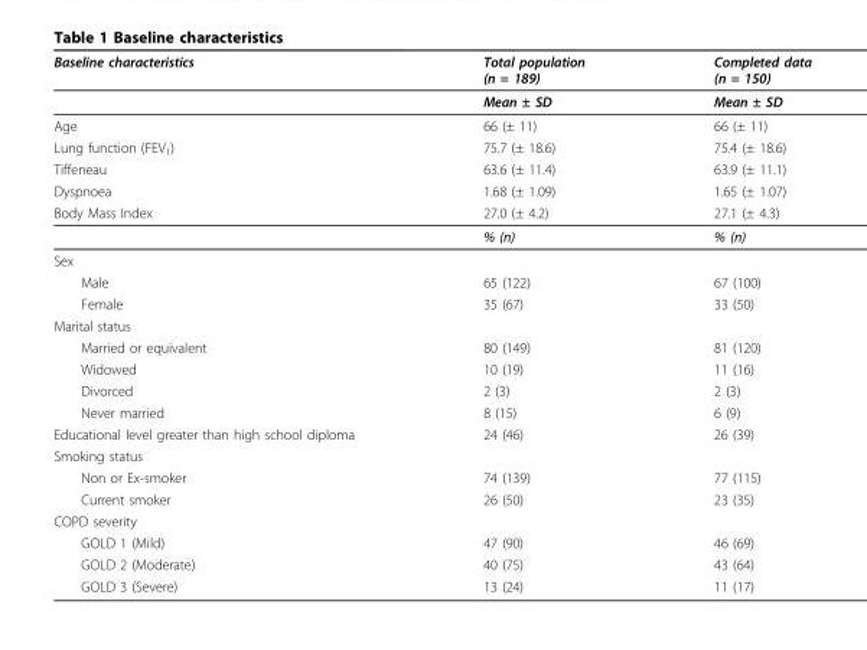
<table><thead><tr><td>Baseline characteristics</td><td>Total population (n = 189)</td><td>Completed data (n = 150)</td></tr></thead><tbody><tr><td></td><td>Mean ± SD</td><td>Mean ± SD</td></tr><tr><td>Age</td><td>66 (± 11)</td><td>66 (± 11)</td></tr><tr><td>Lung function (FEV<sub>1</sub>)</td><td>75.7 (± 18.6)</td><td>75.4 (± 18.6)</td></tr><tr><td>Tiffeneau</td><td>63.6 (± 11.4)</td><td>63.9 (± 11.1)</td></tr><tr><td>Dyspnoea</td><td>1.68 (± 1.09)</td><td>1.65 (± 1.07)</td></tr><tr><td rowspan="2">Body Mass Index</td><td>27.0 (± 4.2)</td><td>27.1 (± 4.3)</td></tr><tr><td>% (n)</td><td>% (n)</td></tr><tr><td colspan="3">Sex</td></tr><tr><td>Male</td><td>65 (122)</td><td>67 (100)</td></tr><tr><td>Female</td><td>35 (67)</td><td>33 (50)</td></tr><tr><td colspan="3">Marital status</td></tr><tr><td>Married or equivalent</td><td>80 (149)</td><td>81 (120)</td></tr><tr><td>Widowed</td><td>10 (19)</td><td>11 (16)</td></tr><tr><td>Divorced</td><td>2 (3)</td><td>2 (3)</td></tr><tr><td>Never married</td><td>8 (15)</td><td>6 (9)</td></tr><tr><td>Educational level greater than high school diploma</td><td>24 (46)</td><td>26 (39)</td></tr><tr><td colspan="3">Smoking status</td></tr><tr><td>Non or Ex-smoker</td><td>74 (139)</td><td>77 (115)</td></tr><tr><td>Current smoker</td><td>26 (50)</td><td>23 (35)</td></tr><tr><td colspan="3">COPD severity</td></tr><tr><td>GOLD 1 (Mild)</td><td>47 (90)</td><td>46 (69)</td></tr><tr><td>GOLD 2 (Moderate)</td><td>40 (75)</td><td>43 (64)</td></tr><tr><td>GOLD 3 (Severe)</td><td>13 (24)</td><td>11 (17)</td></tr></tbody></table>